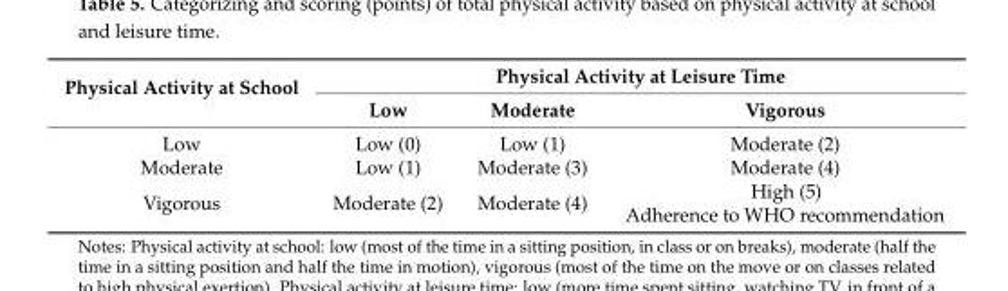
<table><thead><tr><td rowspan="2">Physical Activity at School</td><td colspan="3">Physical Activity at Leisure Time</td></tr><tr><td>Low</td><td>Moderate</td><td>Vigorous</td></tr></thead><tbody><tr><td>Low</td><td>Low (0)</td><td>Low (1)</td><td>Moderate (2)</td></tr><tr><td>Moderate</td><td>Low (1)</td><td>Moderate (3)</td><td>Moderate (4)</td></tr><tr><td>Vigorous</td><td>Moderate (2)</td><td>Moderate (4)</td><td>High (5) Adherence to WHO recommendation</td></tr></tbody></table>